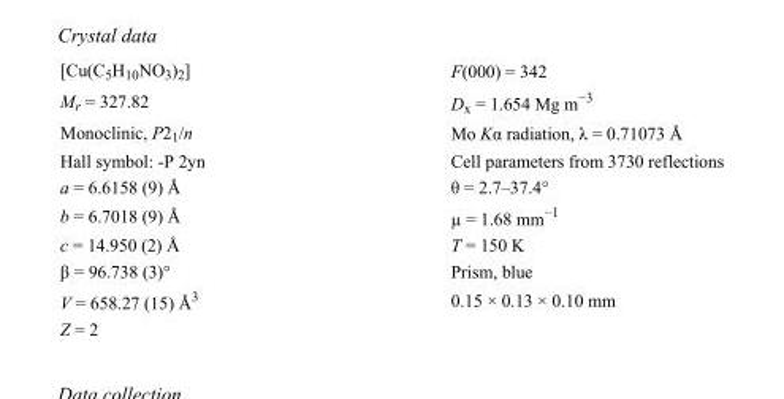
<table><tbody><tr><td>[Cu(C<sub>5</sub>H<sub>10</sub>NO<sub>3</sub>)<sub>2</sub>]</td><td>F(000) = 342</td></tr><tr><td>M<sub>r</sub> = 327.82</td><td>D<sub>x</sub> = 1.654 Mg m<sup>−3</sup></td></tr><tr><td>Monoclinic, P2<sub>1</sub>/n</td><td>Mo Kα radiation, λ = 0.71073 Å</td></tr><tr><td>Hall symbol: -P 2yn</td><td>Cell parameters from 3730 reflections</td></tr><tr><td>a = 6.6158 (9) Å</td><td>θ = 2.7–37.4°</td></tr><tr><td>b = 6.7018 (9) Å</td><td>µ = 1.68 mm<sup>−1</sup></td></tr><tr><td>c = 14.950 (2) Å</td><td>T = 150 K</td></tr><tr><td>β = 96.738 (3)°</td><td>Prism, blue</td></tr><tr><td>V = 658.27 (15) Å<sup>3</sup></td><td>0.15 × 0.13 × 0.10 mm</td></tr><tr><td>Z = 2</td><td></td></tr></tbody></table>